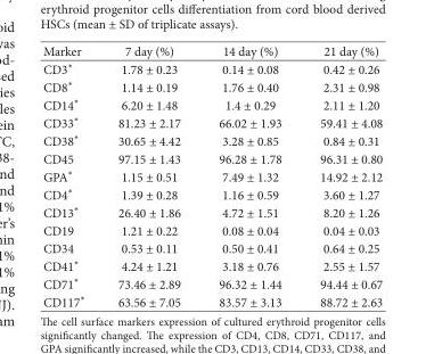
<table><thead><tr><td>Marker</td><td>7 day (%)</td><td>14 day (%)</td><td>21 day (%)</td></tr></thead><tbody><tr><td>CD3∗</td><td>1.78 ± 0.23</td><td>0.14 ± 0.08</td><td>0.42 ± 0.26</td></tr><tr><td>CD8∗</td><td>1.14 ± 0.19</td><td>1.76 ± 0.40</td><td>2.31 ± 0.98</td></tr><tr><td>CD14∗</td><td>6.20 ± 1.48</td><td>1.4 ± 0.29</td><td>2.11 ± 1.20</td></tr><tr><td>CD33∗</td><td>81.23 ± 2.17</td><td>66.02 ± 1.93</td><td>59.41 ± 4.08</td></tr><tr><td>CD38∗</td><td>30.65 ± 4.42</td><td>3.28 ± 0.85</td><td>0.84 ± 0.31</td></tr><tr><td>CD45</td><td>97.15 ± 1.43</td><td>96.28 ± 1.78</td><td>96.31 ± 0.80</td></tr><tr><td>GPA∗</td><td>1.15 ± 0.51</td><td>7.49 ± 1.32</td><td>14.92 ± 2.12</td></tr><tr><td>CD4∗</td><td>1.39 ± 0.28</td><td>1.16 ± 0.59</td><td>3.60 ± 1.27</td></tr><tr><td>CD13∗</td><td>26.40 ± 1.86</td><td>4.72 ± 1.51</td><td>8.20 ± 1.26</td></tr><tr><td>CD19</td><td>1.21 ± 0.22</td><td>0.08 ± 0.04</td><td>0.04 ± 0.03</td></tr><tr><td>CD34</td><td>0.53 ± 0.11</td><td>0.50 ± 0.41</td><td>0.64 ± 0.25</td></tr><tr><td>CD41∗</td><td>4.24 ± 1.21</td><td>3.18 ± 0.76</td><td>2.55 ± 1.57</td></tr><tr><td>CD71∗</td><td>73.46 ± 2.89</td><td>96.32 ± 1.44</td><td>94.44 ± 0.67</td></tr><tr><td>CD117∗</td><td>63.56 ± 7.05</td><td>83.57 ± 3.13</td><td>88.72 ± 2.63</td></tr></tbody></table>